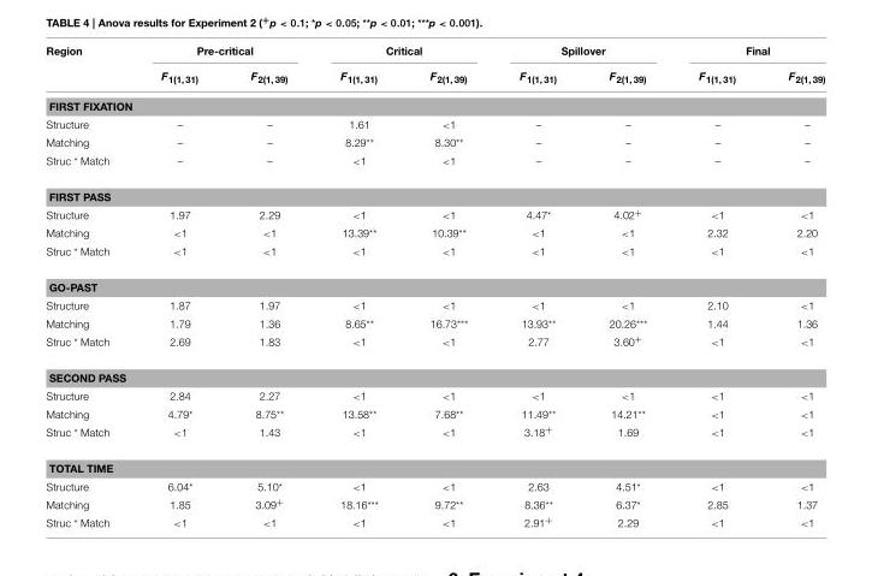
<table><thead><tr><td rowspan="2">Region</td><td colspan="2">Pre-critical</td><td colspan="2">Critical</td><td colspan="2">Spillover</td><td colspan="2">Final</td></tr><tr><td>F<sub>1(1, 31)</sub></td><td>F<sub>2(1, 39)</sub></td><td>F<sub>1(1, 31)</sub></td><td>F<sub>2(1, 39)</sub></td><td>F<sub>1(1, 31)</sub></td><td>F<sub>2(1, 39)</sub></td><td>F<sub>1(1, 31)</sub></td><td>F<sub>2(1, 39)</sub></td></tr></thead><tbody><tr><td colspan="9">FIRST FIXATION</td></tr><tr><td>Structure</td><td>–</td><td>–</td><td>1.61</td><td>&lt;1</td><td>–</td><td>–</td><td>–</td><td>–</td></tr><tr><td>Matching</td><td>–</td><td>–</td><td>8.29**</td><td>8.30**</td><td>–</td><td>–</td><td>–</td><td>–</td></tr><tr><td>Struc * Match</td><td>–</td><td>–</td><td>&lt;1</td><td>&lt;1</td><td>–</td><td>–</td><td>–</td><td>–</td></tr><tr><td colspan="9">FIRST PASS</td></tr><tr><td>Structure</td><td>1.97</td><td>2.29</td><td>&lt;1</td><td>&lt;1</td><td>4.47*</td><td>4.02<sup>+</sup></td><td>&lt;1</td><td>&lt;1</td></tr><tr><td>Matching</td><td>&lt;1</td><td>&lt;1</td><td>13.39**</td><td>10.39**</td><td>&lt;1</td><td>&lt;1</td><td>2.32</td><td>2.20</td></tr><tr><td>Struc * Match</td><td>&lt;1</td><td>&lt;1</td><td>&lt;1</td><td>&lt;1</td><td>&lt;1</td><td>&lt;1</td><td>&lt;1</td><td>&lt;1</td></tr><tr><td colspan="9">GO-PAST</td></tr><tr><td>Structure</td><td>1.87</td><td>1.97</td><td>&lt;1</td><td>&lt;1</td><td>&lt;1</td><td>&lt;1</td><td>2.10</td><td>&lt;1</td></tr><tr><td>Matching</td><td>1.79</td><td>1.36</td><td>8.65**</td><td>16.73***</td><td>13.93**</td><td>20.26***</td><td>1.44</td><td>1.36</td></tr><tr><td>Struc * Match</td><td>2.69</td><td>1.83</td><td>&lt;1</td><td>&lt;1</td><td>2.77</td><td>3.60<sup>+</sup></td><td>&lt;1</td><td>&lt;1</td></tr><tr><td colspan="9">SECOND PASS</td></tr><tr><td>Structure</td><td>2.84</td><td>2.27</td><td>&lt;1</td><td>&lt;1</td><td>&lt;1</td><td>&lt;1</td><td>&lt;1</td><td>&lt;1</td></tr><tr><td>Matching</td><td>4.79*</td><td>8.75**</td><td>13.58**</td><td>7.68**</td><td>11.49**</td><td>14.21**</td><td>&lt;1</td><td>&lt;1</td></tr><tr><td>Struc * Match</td><td>&lt;1</td><td>1.43</td><td>&lt;1</td><td>&lt;1</td><td>3.18<sup>+</sup></td><td>1.69</td><td>&lt;1</td><td>&lt;1</td></tr><tr><td colspan="9">TOTAL TIME</td></tr><tr><td>Structure</td><td>6.04*</td><td>5.10*</td><td>&lt;1</td><td>&lt;1</td><td>2.63</td><td>4.51*</td><td>&lt;1</td><td>&lt;1</td></tr><tr><td>Matching</td><td>1.85</td><td>3.09<sup>+</sup></td><td>18.16***</td><td>9.72**</td><td>8.36**</td><td>6.37*</td><td>2.85</td><td>1.37</td></tr><tr><td>Struc * Match</td><td>&lt;1</td><td>&lt;1</td><td>&lt;1</td><td>&lt;1</td><td>2.91<sup>+</sup></td><td>2.29</td><td>&lt;1</td><td>&lt;1</td></tr></tbody></table>